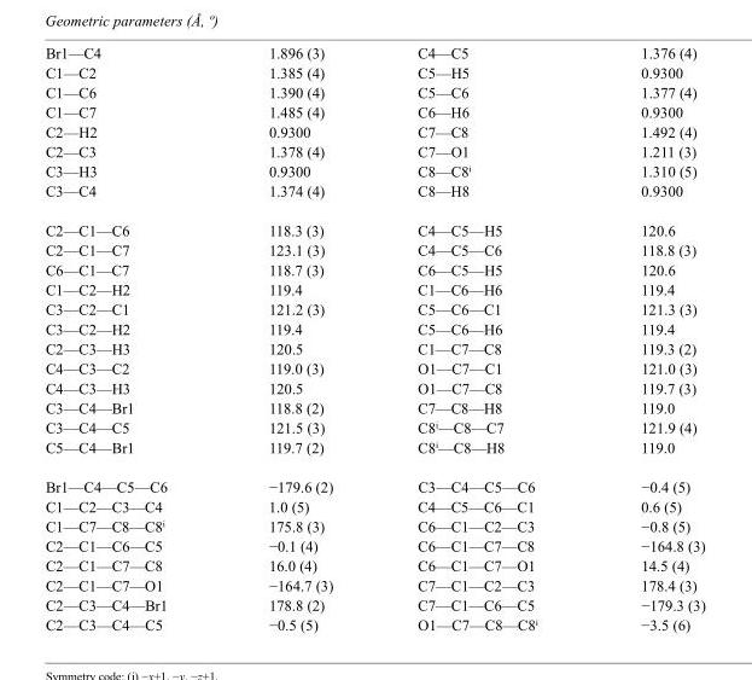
<table><tbody><tr><td>Br1—C4</td><td>1.896 (3)</td><td>C4—C5</td><td>1.376 (4)</td></tr><tr><td>C1—C2</td><td>1.385 (4)</td><td>C5—H5</td><td>0.9300</td></tr><tr><td>C1—C6</td><td>1.390 (4)</td><td>C5—C6</td><td>1.377 (4)</td></tr><tr><td>C1—C7</td><td>1.485 (4)</td><td>C6—H6</td><td>0.9300</td></tr><tr><td>C2—H2</td><td>0.9300</td><td>C7—C8</td><td>1.492 (4)</td></tr><tr><td>C2—C3</td><td>1.378 (4)</td><td>C7—O1</td><td>1.211 (3)</td></tr><tr><td>C3—H3</td><td>0.9300</td><td>C8—C8<sup>i</sup></td><td>1.310 (5)</td></tr><tr><td>C3—C4</td><td>1.374 (4)</td><td>C8—H8</td><td>0.9300</td></tr><tr><td>C2—C1—C6</td><td>118.3 (3)</td><td>C4—C5—H5</td><td>120.6</td></tr><tr><td>C2—C1—C7</td><td>123.1 (3)</td><td>C4—C5—C6</td><td>118.8 (3)</td></tr><tr><td>C6—C1—C7</td><td>118.7 (3)</td><td>C6—C5—H5</td><td>120.6</td></tr><tr><td>C1—C2—H2</td><td>119.4</td><td>C1—C6—H6</td><td>119.4</td></tr><tr><td>C3—C2—C1</td><td>121.2 (3)</td><td>C5—C6—C1</td><td>121.3 (3)</td></tr><tr><td>C3—C2—H2</td><td>119.4</td><td>C5—C6—H6</td><td>119.4</td></tr><tr><td>C2—C3—H3</td><td>120.5</td><td>C1—C7—C8</td><td>119.3 (2)</td></tr><tr><td>C4—C3—C2</td><td>119.0 (3)</td><td>O1—C7—C1</td><td>121.0 (3)</td></tr><tr><td>C4—C3—H3</td><td>120.5</td><td>O1—C7—C8</td><td>119.7 (3)</td></tr><tr><td>C3—C4—Br1</td><td>118.8 (2)</td><td>C7—C8—H8</td><td>119.0</td></tr><tr><td>C3—C4—C5</td><td>121.5 (3)</td><td>C8<sup>i</sup>—C8—C7</td><td>121.9 (4)</td></tr><tr><td>C5—C4—Br1</td><td>119.7 (2)</td><td>C8<sup>i</sup>—C8—H8</td><td>119.0</td></tr><tr><td>Br1—C4—C5—C6</td><td>−179.6 (2)</td><td>C3—C4—C5—C6</td><td>−0.4 (5)</td></tr><tr><td>C1—C2—C3—C4</td><td>1.0 (5)</td><td>C4—C5—C6—C1</td><td>0.6 (5)</td></tr><tr><td>C1—C7—C8—C8<sup>i</sup></td><td>175.8 (3)</td><td>C6—C1—C2—C3</td><td>−0.8 (5)</td></tr><tr><td>C2—C1—C6—C5</td><td>−0.1 (4)</td><td>C6—C1—C7—C8</td><td>−164.8 (3)</td></tr><tr><td>C2—C1—C7—C8</td><td>16.0 (4)</td><td>C6—C1—C7—O1</td><td>14.5 (4)</td></tr><tr><td>C2—C1—C7—O1</td><td>−164.7 (3)</td><td>C7—C1—C2—C3</td><td>178.4 (3)</td></tr><tr><td>C2—C3—C4—Br1</td><td>178.8 (2)</td><td>C7—C1—C6—C5</td><td>−179.3 (3)</td></tr><tr><td>C2—C3—C4—C5</td><td>−0.5 (5)</td><td>O1—C7—C8—C8<sup>i</sup></td><td>−3.5 (6)</td></tr></tbody></table>